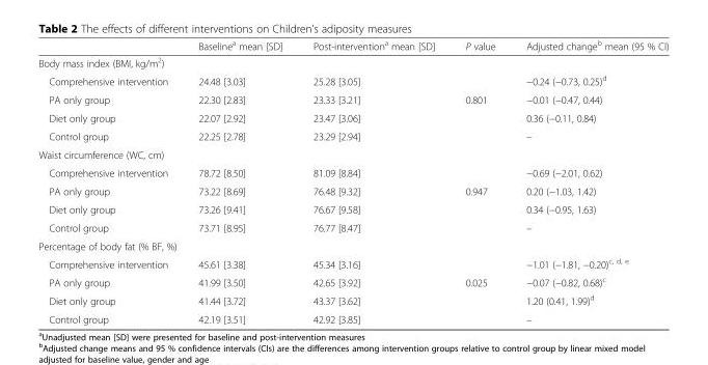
<table><thead><tr><td></td><td>Baseline<sup>a</sup> mean [SD]</td><td>Post-intervention<sup>a</sup> mean [SD]</td><td>P value</td><td>Adjusted change<sup>b</sup> mean (95 % CI)</td></tr></thead><tbody><tr><td colspan="5">Body mass index (BMI, kg/m<sup>2</sup>)</td></tr><tr><td>Comprehensive intervention</td><td>24.48 [3.03]</td><td>25.28 [3.05]</td><td></td><td>−0.24 (−0.73, 0.25)<sup>d</sup></td></tr><tr><td>PA only group</td><td>22.30 [2.83]</td><td>23.33 [3.21]</td><td>0.801</td><td>−0.01 (−0.47, 0.44)</td></tr><tr><td>Diet only group</td><td>22.07 [2.92]</td><td>23.47 [3.06]</td><td></td><td>0.36 (−0.11, 0.84)</td></tr><tr><td>Control group</td><td>22.25 [2.78]</td><td>23.29 [2.94]</td><td></td><td>–</td></tr><tr><td colspan="5">Waist circumference (WC, cm)</td></tr><tr><td>Comprehensive intervention</td><td>78.72 [8.50]</td><td>81.09 [8.84]</td><td></td><td>−0.69 (−2.01, 0.62)</td></tr><tr><td>PA only group</td><td>73.22 [8.69]</td><td>76.48 [9.32]</td><td>0.947</td><td>0.20 (−1.03, 1.42)</td></tr><tr><td>Diet only group</td><td>73.26 [9.41]</td><td>76.67 [9.58]</td><td></td><td>0.34 (−0.95, 1.63)</td></tr><tr><td>Control group</td><td>73.71 [8.95]</td><td>76.77 [8.47]</td><td></td><td>–</td></tr><tr><td colspan="5">Percentage of body fat (% BF, %)</td></tr><tr><td>Comprehensive intervention</td><td>45.61 [3.38]</td><td>45.34 [3.16]</td><td></td><td>−1.01 (−1.81, −0.20)<sup>c, d, e</sup></td></tr><tr><td>PA only group</td><td>41.99 [3.50]</td><td>42.65 [3.92]</td><td>0.025</td><td>−0.07 (−0.82, 0.68)<sup>c</sup></td></tr><tr><td>Diet only group</td><td>41.44 [3.72]</td><td>43.37 [3.62]</td><td></td><td>1.20 (0.41, 1.99)<sup>d</sup></td></tr><tr><td>Control group</td><td>42.19 [3.51]</td><td>42.92 [3.85]</td><td></td><td>–</td></tr></tbody></table>